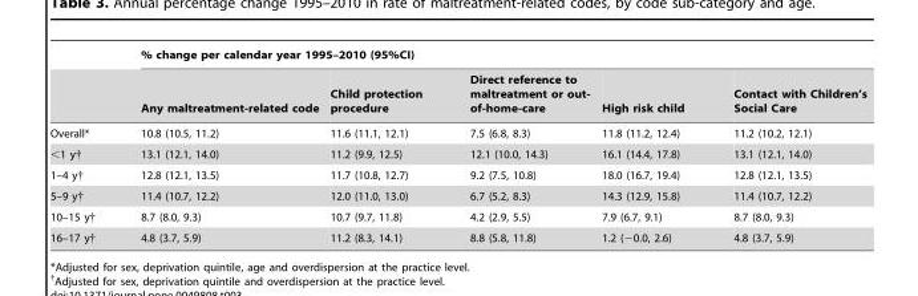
<table><thead><tr><td rowspan="2"></td><td colspan="5">% change per calendar year 1995–2010 (95%CI)</td></tr><tr><td>Any maltreatment-related code</td><td>Child protection procedure</td><td>Direct reference to maltreatment or out- of-home-care</td><td>High risk child</td><td>Contact with Children’s Social Care</td></tr></thead><tbody><tr><td>Overall*</td><td>10.8 (10.5, 11.2)</td><td>11.6 (11.1, 12.1)</td><td>7.5 (6.8, 8.3)</td><td>11.8 (11.2, 12.4)</td><td>11.2 (10.2, 12.1)</td></tr><tr><td>&lt;1 y†</td><td>13.1 (12.1, 14.0)</td><td>11.2 (9.9, 12.5)</td><td>12.1 (10.0, 14.3)</td><td>16.1 (14.4, 17.8)</td><td>13.1 (12.1, 14.0)</td></tr><tr><td>1–4 y†</td><td>12.8 (12.1, 13.5)</td><td>11.7 (10.8, 12.7)</td><td>9.2 (7.5, 10.8)</td><td>18.0 (16.7, 19.4)</td><td>12.8 (12.1, 13.5)</td></tr><tr><td>5–9 y†</td><td>11.4 (10.7, 12.2)</td><td>12.0 (11.0, 13.0)</td><td>6.7 (5.2, 8.3)</td><td>14.3 (12.9, 15.8)</td><td>11.4 (10.7, 12.2)</td></tr><tr><td>10–15 y†</td><td>8.7 (8.0, 9.3)</td><td>10.7 (9.7, 11.8)</td><td>4.2 (2.9, 5.5)</td><td>7.9 (6.7, 9.1)</td><td>8.7 (8.0, 9.3)</td></tr><tr><td>16–17 y†</td><td>4.8 (3.7, 5.9)</td><td>11.2 (8.3, 14.1)</td><td>8.8 (5.8, 11.8)</td><td>1.2 (−0.0, 2.6)</td><td>4.8 (3.7, 5.9)</td></tr></tbody></table>